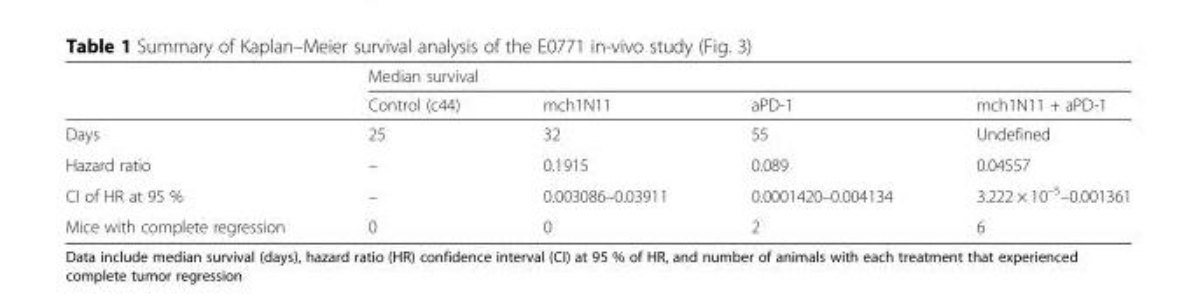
<table><thead><tr><td rowspan="2"></td><td colspan="4">Median survival</td></tr><tr><td>Control (c44)</td><td>mch1N11</td><td>aPD-1</td><td>mch1N11 + aPD-1</td></tr></thead><tbody><tr><td>Days</td><td>25</td><td>32</td><td>55</td><td>Undefined</td></tr><tr><td>Hazard ratio</td><td>–</td><td>0.1915</td><td>0.089</td><td>0.04557</td></tr><tr><td>CI of HR at 95 %</td><td>–</td><td>0.003086–0.03911</td><td>0.0001420–0.004134</td><td>3.222 × 10<sup>–5</sup>–0.001361</td></tr><tr><td>Mice with complete regression</td><td>0</td><td>0</td><td>2</td><td>6</td></tr></tbody></table>